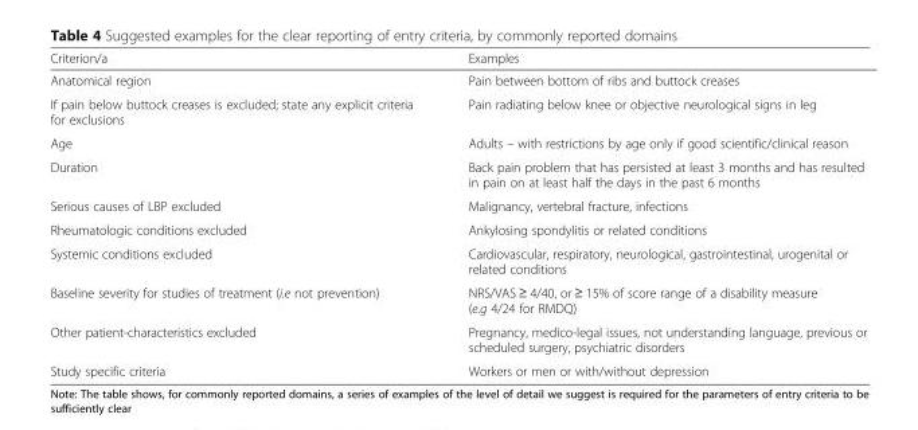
<table><thead><tr><td>Criterion/a</td><td>Examples</td></tr></thead><tbody><tr><td>Anatomical region</td><td>Pain between bottom of ribs and buttock creases</td></tr><tr><td>If pain below buttock creases is excluded; state any explicit criteria for exclusions</td><td>Pain radiating below knee or objective neurological signs in leg</td></tr><tr><td>Age</td><td>Adults – with restrictions by age only if good scientific/clinical reason</td></tr><tr><td>Duration</td><td>Back pain problem that has persisted at least 3 months and has resulted in pain on at least half the days in the past 6 months</td></tr><tr><td>Serious causes of LBP excluded</td><td>Malignancy, vertebral fracture, infections</td></tr><tr><td>Rheumatologic conditions excluded</td><td>Ankylosing spondylitis or related conditions</td></tr><tr><td>Systemic conditions excluded</td><td>Cardiovascular, respiratory, neurological, gastrointestinal, urogenital or related conditions</td></tr><tr><td>Baseline severity for studies of treatment (i.e not prevention)</td><td>NRS/VAS ≥ 4/40, or ≥ 15% of score range of a disability measure (e.g 4/24 for RMDQ)</td></tr><tr><td>Other patient-characteristics excluded</td><td>Pregnancy, medico-legal issues, not understanding language, previous or scheduled surgery, psychiatric disorders</td></tr><tr><td>Study specific criteria</td><td>Workers or men or with/without depression</td></tr></tbody></table>